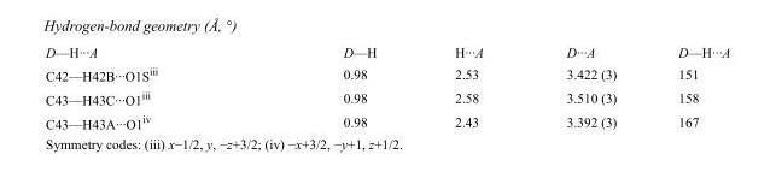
<table><tbody><tr><td>D—H···A</td><td>D—H</td><td>H···A</td><td>D···A</td><td>D—H···A</td></tr><tr><td>C42—H42B···O1S<sup>iii</sup></td><td>0.98</td><td>2.53</td><td>3.422 (3)</td><td>151</td></tr><tr><td>C43—H43C···O1<sup>iii</sup></td><td>0.98</td><td>2.58</td><td>3.510 (3)</td><td>158</td></tr><tr><td>C43—H43A···O1<sup>iv</sup></td><td>0.98</td><td>2.43</td><td>3.392 (3)</td><td>167</td></tr></tbody></table>